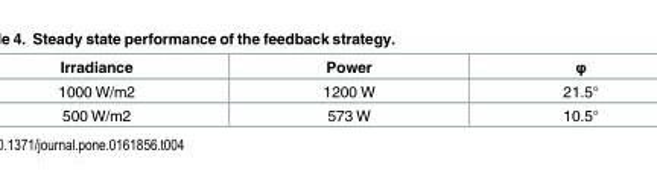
<table><thead><tr><td>Irradiance</td><td>Power</td><td>φ</td></tr></thead><tbody><tr><td>1000 W/m2</td><td>1200 W</td><td>21.5°</td></tr><tr><td>500 W/m2</td><td>573 W</td><td>10.5°</td></tr></tbody></table>